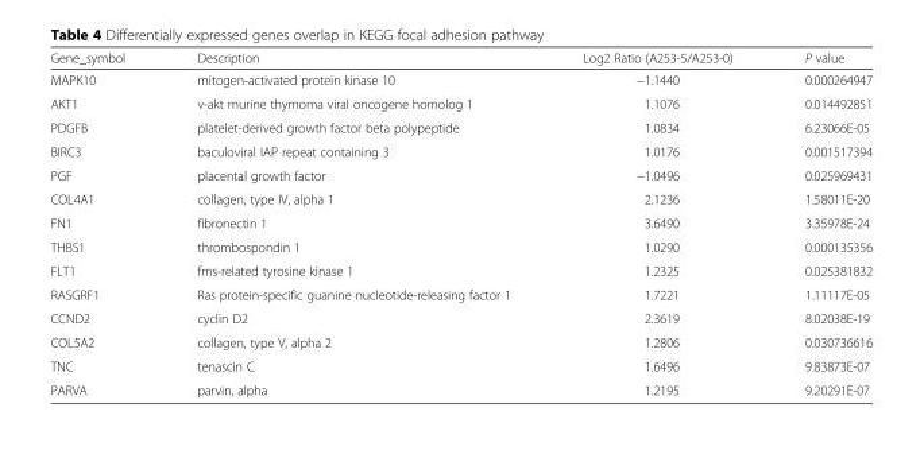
<table><thead><tr><td>Gene_symbol</td><td>Description</td><td>Log2 Ratio (A253-5/A253-0)</td><td>P value</td></tr></thead><tbody><tr><td>MAPK10</td><td>mitogen-activated protein kinase 10</td><td>−1.1440</td><td>0.000264947</td></tr><tr><td>AKT1</td><td>v-akt murine thymoma viral oncogene homolog 1</td><td>1.1076</td><td>0.014492851</td></tr><tr><td>PDGFB</td><td>platelet-derived growth factor beta polypeptide</td><td>1.0834</td><td>6.23066E-05</td></tr><tr><td>BIRC3</td><td>baculoviral IAP repeat containing 3</td><td>1.0176</td><td>0.001517394</td></tr><tr><td>PGF</td><td>placental growth factor</td><td>−1.0496</td><td>0.025969431</td></tr><tr><td>COL4A1</td><td>collagen, type IV, alpha 1</td><td>2.1236</td><td>1.58011E-20</td></tr><tr><td>FN1</td><td>fibronectin 1</td><td>3.6490</td><td>3.35978E-24</td></tr><tr><td>THBS1</td><td>thrombospondin 1</td><td>1.0290</td><td>0.000135356</td></tr><tr><td>FLT1</td><td>fms-related tyrosine kinase 1</td><td>1.2325</td><td>0.025381832</td></tr><tr><td>RASGRF1</td><td>Ras protein-specific guanine nucleotide-releasing factor 1</td><td>1.7221</td><td>1.11117E-05</td></tr><tr><td>CCND2</td><td>cyclin D2</td><td>2.3619</td><td>8.02038E-19</td></tr><tr><td>COL5A2</td><td>collagen, type V, alpha 2</td><td>1.2806</td><td>0.030736616</td></tr><tr><td>TNC</td><td>tenascin C</td><td>1.6496</td><td>9.83873E-07</td></tr><tr><td>PARVA</td><td>parvin, alpha</td><td>1.2195</td><td>9.20291E-07</td></tr></tbody></table>